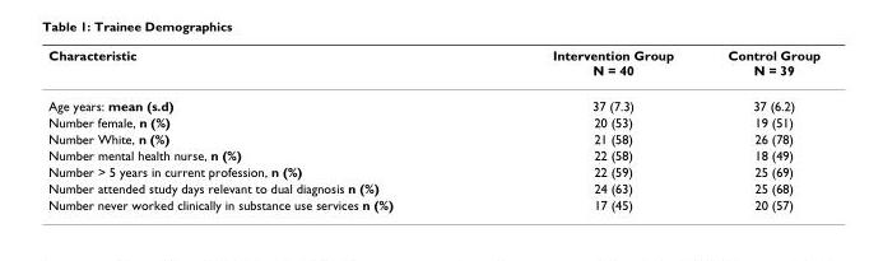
<table><thead><tr><td>Characteristic</td><td>Intervention Group N = 40</td><td>Control Group N = 39</td></tr></thead><tbody><tr><td>Age years: mean (s.d)</td><td>37 (7.3)</td><td>37 (6.2)</td></tr><tr><td>Number female, n (%)</td><td>20 (53)</td><td>19 (51)</td></tr><tr><td>Number White, n (%)</td><td>21 (58)</td><td>26 (78)</td></tr><tr><td>Number mental health nurse, n (%)</td><td>22 (58)</td><td>18 (49)</td></tr><tr><td>Number &gt; 5 years in current profession, n (%)</td><td>22 (59)</td><td>25 (69)</td></tr><tr><td>Number attended study days relevant to dual diagnosis n (%)</td><td>24 (63)</td><td>25 (68)</td></tr><tr><td>Number never worked clinically in substance use services n (%)</td><td>17 (45)</td><td>20 (57)</td></tr></tbody></table>